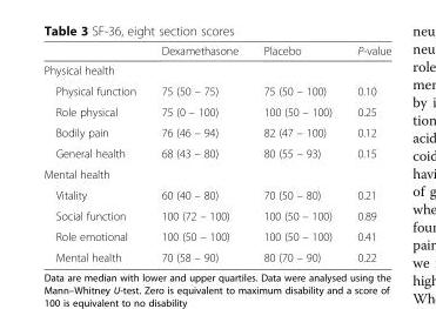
<table><thead><tr><td></td><td>Dexamethasone</td><td>Placebo</td><td>P-value</td></tr></thead><tbody><tr><td colspan="4">Physical health</td></tr><tr><td>Physical function</td><td>75 (50 – 75)</td><td>75 (50 – 100)</td><td>0.10</td></tr><tr><td>Role physical</td><td>75 (0 – 100)</td><td>100 (50 – 100)</td><td>0.25</td></tr><tr><td>Bodily pain</td><td>76 (46 – 94)</td><td>82 (47 – 100)</td><td>0.12</td></tr><tr><td>General health</td><td>68 (43 – 80)</td><td>80 (55 – 93)</td><td>0.15</td></tr><tr><td colspan="4">Mental health</td></tr><tr><td>Vitality</td><td>60 (40 – 80)</td><td>70 (50 – 80)</td><td>0.21</td></tr><tr><td>Social function</td><td>100 (72 – 100)</td><td>100 (50 – 100)</td><td>0.89</td></tr><tr><td>Role emotional</td><td>100 (50 – 100)</td><td>100 (50 – 100)</td><td>0.41</td></tr><tr><td>Mental health</td><td>70 (58 – 90)</td><td>80 (70 – 90)</td><td>0.22</td></tr></tbody></table>